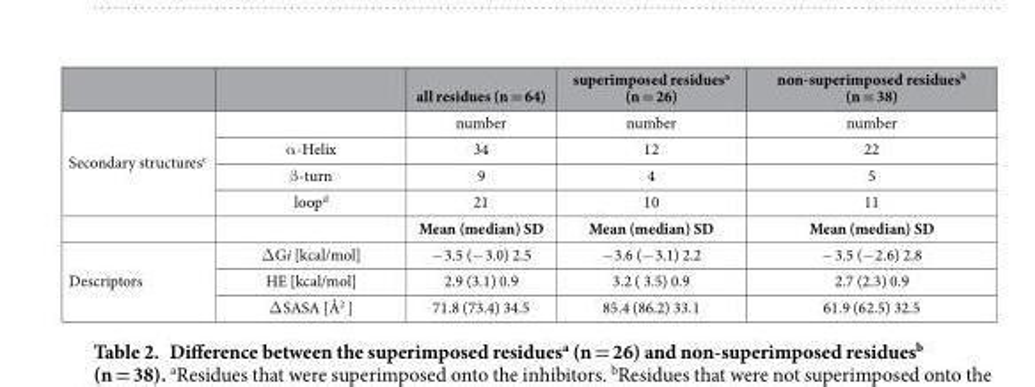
<table><thead><tr><td></td><td></td><td>all residues (n = 64)</td><td>superimposed residues<sup>a</sup> (n = 26)</td><td>non-superimposed residues<sup>b</sup> (n = 38)</td></tr></thead><tbody><tr><td rowspan="5">Secondary structures<sup>c</sup></td><td></td><td>number</td><td>number</td><td>number</td></tr><tr><td>α -Helix</td><td>34</td><td>12</td><td>22</td></tr><tr><td>β -turn</td><td>9</td><td>4</td><td>5</td></tr><tr><td>loop<sup>d</sup></td><td>21</td><td>10</td><td>11</td></tr><tr><td></td><td>Mean (median) SD</td><td>Mean (median) SD</td><td>Mean (median) SD</td></tr><tr><td rowspan="3">Descriptors</td><td>Δ Gi [kcal/mol]</td><td>− 3.5 (− 3.0) 2.5</td><td>− 3.6 (− 3.1) 2.2</td><td>− 3.5 (− 2.6) 2.8</td></tr><tr><td>HE [kcal/mol]</td><td>2.9 (3.1) 0.9</td><td>3.2 ( 3.5) 0.9</td><td>2.7 (2.3) 0.9</td></tr><tr><td>Δ SASA [Å<sup>2</sup> ]</td><td>71.8 (73.4) 34.5</td><td>85.4 (86.2) 33.1</td><td>61.9 (62.5) 32.5</td></tr></tbody></table>